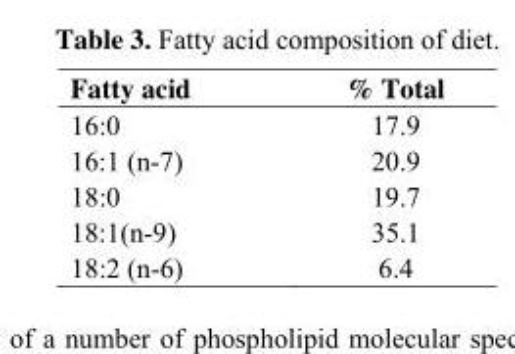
<table><thead><tr><td>Fatty acid</td><td>% Total</td></tr></thead><tbody><tr><td>16:0</td><td>17.9</td></tr><tr><td>16:1 (n-7)</td><td>20.9</td></tr><tr><td>18:0</td><td>19.7</td></tr><tr><td>18:1(n-9)</td><td>35.1</td></tr><tr><td>18:2 (n-6)</td><td>6.4</td></tr></tbody></table>